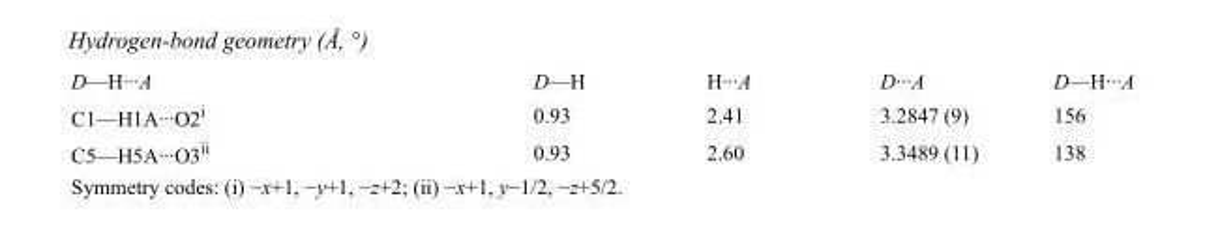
<table><tbody><tr><td>D—H···A</td><td>D—H</td><td>H···A</td><td>D···A</td><td>D—H···A</td></tr><tr><td>C1—H1A···O2<sup>i</sup></td><td>0.93</td><td>2.41</td><td>3.2847 (9)</td><td>156</td></tr><tr><td>C5—H5A···O3<sup>ii</sup></td><td>0.93</td><td>2.60</td><td>3.3489 (11)</td><td>138</td></tr></tbody></table>